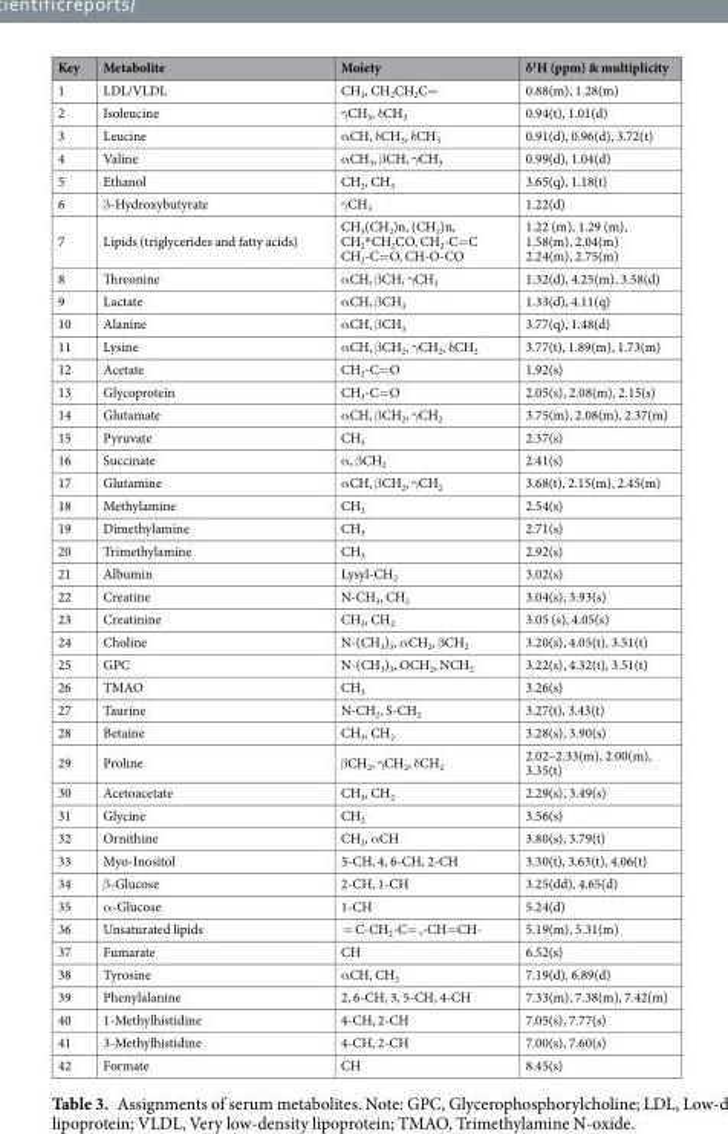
<table><thead><tr><td>Key</td><td>Metabolite</td><td>Moiety</td><td>δ<sup>1</sup>H (ppm) &amp; multiplicity</td></tr></thead><tbody><tr><td>1</td><td>LDL/VLDL</td><td>CH<sub>3</sub>, CH<sub>2</sub>CH<sub>2</sub>C=</td><td>0.88(m), 1.28(m)</td></tr><tr><td>2</td><td>Isoleucine</td><td>γCH<sub>3</sub>, δCH<sub>3</sub></td><td>0.94(t), 1.01(d)</td></tr><tr><td>3</td><td>Leucine</td><td>αCH, δCH<sub>3</sub>, δCH<sub>3</sub></td><td>0.91(d), 0.96(d), 3.72(t)</td></tr><tr><td>4</td><td>Valine</td><td>αCH<sub>3</sub>, βCH, γCH<sub>3</sub></td><td>0.99(d), 1.04(d)</td></tr><tr><td>5</td><td>Ethanol</td><td>CH<sub>2</sub>, CH<sub>3</sub></td><td>3.65(q), 1.18(t)</td></tr><tr><td>6</td><td>β-Hydroxybutyrate</td><td>γCH<sub>3</sub></td><td>1.22(d)</td></tr><tr><td>7</td><td>Lipids (triglycerides and fatty acids)</td><td>CH<sub>3</sub>(CH<sub>2</sub>)n, (CH<sub>2</sub>)n, CH<sub>2</sub>*CH<sub>2</sub>CO, CH<sub>2</sub>-C=C CH<sub>2</sub>-C=O, CH-O-CO</td><td>1.22 (m), 1.29 (m), 1.58(m), 2.04(m) 2.24(m), 2.75(m)</td></tr><tr><td>8</td><td>Threonine</td><td>αCH, βCH, γCH<sub>3</sub></td><td>1.32(d), 4.25(m), 3.58(d)</td></tr><tr><td>9</td><td>Lactate</td><td>αCH, βCH<sub>3</sub></td><td>1.33(d), 4.11(q)</td></tr><tr><td>10</td><td>Alanine</td><td>αCH, βCH<sub>3</sub></td><td>3.77(q), 1.48(d)</td></tr><tr><td>11</td><td>Lysine</td><td>αCH, βCH<sub>2</sub>, γCH<sub>2</sub>, δCH<sub>2</sub></td><td>3.77(t), 1.89(m), 1.73(m)</td></tr><tr><td>12</td><td>Acetate</td><td>CH<sub>2</sub>-C=O</td><td>1.92(s)</td></tr><tr><td>13</td><td>Glycoprotein</td><td>CH<sub>3</sub>-C=O</td><td>2.05(s), 2.08(m), 2.15(s)</td></tr><tr><td>14</td><td>Glutamate</td><td>αCH, βCH<sub>2</sub>, γCH<sub>2</sub></td><td>3.75(m), 2.08(m), 2.37(m)</td></tr><tr><td>15</td><td>Pyruvate</td><td>CH<sub>3</sub></td><td>2.37(s)</td></tr><tr><td>16</td><td>Succinate</td><td>α, βCH<sub>2</sub></td><td>2.41(s)</td></tr><tr><td>17</td><td>Glutamine</td><td>αCH, βCH<sub>2</sub>, γCH<sub>2</sub></td><td>3.68(t), 2.15(m), 2.45(m)</td></tr><tr><td>18</td><td>Methylamine</td><td>CH<sub>3</sub></td><td>2.54(s)</td></tr><tr><td>19</td><td>Dimethylamine</td><td>CH<sub>3</sub></td><td>2.71(s)</td></tr><tr><td>20</td><td>Trimethylamine</td><td>CH<sub>3</sub></td><td>2.92(s)</td></tr><tr><td>21</td><td>Albumin</td><td>Lysyl-CH<sub>2</sub></td><td>3.02(s)</td></tr><tr><td>22</td><td>Creatine</td><td>N-CH<sub>3</sub>, CH<sub>2</sub></td><td>3.04(s), 3.93(s)</td></tr><tr><td>23</td><td>Creatinine</td><td>CH<sub>3</sub>, CH<sub>2</sub></td><td>3.05 (s), 4.05(s)</td></tr><tr><td>24</td><td>Choline</td><td>N-(CH<sub>3</sub>)<sub>3</sub>, αCH<sub>2</sub>, βCH<sub>2</sub></td><td>3.20(s), 4.05(t), 3.51(t)</td></tr><tr><td>25</td><td>GPC</td><td>N-(CH<sub>3</sub>)<sub>3</sub>, OCH<sub>2</sub>, NCH<sub>2</sub></td><td>3.22(s), 4.32(t), 3.51(t)</td></tr><tr><td>26</td><td>TMAO</td><td>CH<sub>3</sub></td><td>3.26(s)</td></tr><tr><td>27</td><td>Taurine</td><td>N-CH<sub>2</sub>, S-CH<sub>2</sub></td><td>3.27(t), 3.43(t)</td></tr><tr><td>28</td><td>Betaine</td><td>CH<sub>3</sub>, CH<sub>2</sub></td><td>3.28(s), 3.90(s)</td></tr><tr><td>29</td><td>Proline</td><td>βCH<sub>2</sub>, γCH<sub>2</sub>, δCH<sub>2</sub></td><td>2.02–2.33(m), 2.00(m), 3.35(t)</td></tr><tr><td>30</td><td>Acetoacetate</td><td>CH<sub>3</sub>, CH<sub>2</sub></td><td>2.29(s), 3.49(s)</td></tr><tr><td>31</td><td>Glycine</td><td>CH<sub>2</sub></td><td>3.56(s)</td></tr><tr><td>32</td><td>Ornithine</td><td>CH<sub>2</sub>, αCH</td><td>3.80(s), 3.79(t)</td></tr><tr><td>33</td><td>Myo-Inositol</td><td>5-CH, 4, 6-CH, 2-CH</td><td>3.30(t), 3.63(t), 4.06(t)</td></tr><tr><td>34</td><td>β-Glucose</td><td>2-CH, 1-CH</td><td>3.25(dd), 4.65(d)</td></tr><tr><td>35</td><td>α-Glucose</td><td>1-CH</td><td>5.24(d)</td></tr><tr><td>36</td><td>Unsaturated lipids</td><td>= C-CH<sub>2</sub>-C= ,-CH=CH-</td><td>5.19(m), 5.31(m)</td></tr><tr><td>37</td><td>Fumarate</td><td>CH</td><td>6.52(s)</td></tr><tr><td>38</td><td>Tyrosine</td><td>αCH, CH<sub>2</sub></td><td>7.19(d), 6.89(d)</td></tr><tr><td>39</td><td>Phenylalanine</td><td>2, 6-CH, 3, 5-CH, 4-CH</td><td>7.33(m), 7.38(m), 7.42(m)</td></tr><tr><td>40</td><td>1-Methylhistidine</td><td>4-CH, 2-CH</td><td>7.05(s), 7.77(s)</td></tr><tr><td>41</td><td>3-Methylhistidine</td><td>4-CH, 2-CH</td><td>7.00(s), 7.60(s)</td></tr><tr><td>42</td><td>Formate</td><td>CH</td><td>8.45(s)</td></tr></tbody></table>